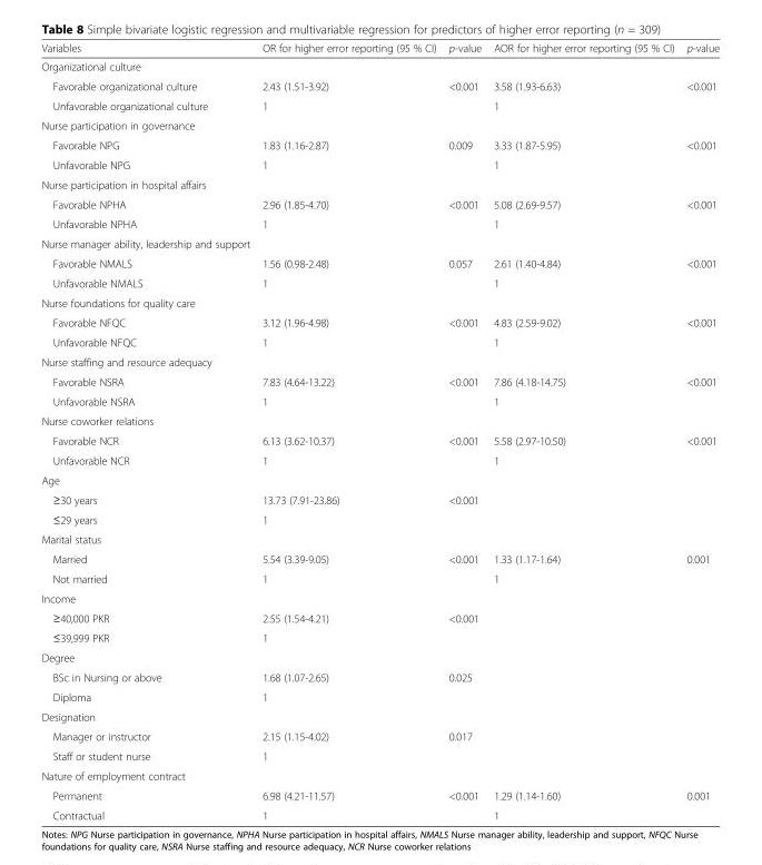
<table><thead><tr><td>Variables</td><td>OR for higher error reporting (95 % CI)</td><td>p-value</td><td>AOR for higher error reporting (95 % CI)</td><td>p-value</td></tr></thead><tbody><tr><td colspan="5">Organizational culture</td></tr><tr><td>Favorable organizational culture</td><td>2.43 (1.51-3.92)</td><td>&lt;0.001</td><td>3.58 (1.93-6.63)</td><td>&lt;0.001</td></tr><tr><td>Unfavorable organizational culture</td><td>1</td><td></td><td>1</td><td></td></tr><tr><td colspan="5">Nurse participation in governance</td></tr><tr><td>Favorable NPG</td><td>1.83 (1.16-2.87)</td><td>0.009</td><td>3.33 (1.87-5.95)</td><td>&lt;0.001</td></tr><tr><td>Unfavorable NPG</td><td>1</td><td></td><td>1</td><td></td></tr><tr><td colspan="5">Nurse participation in hospital affairs</td></tr><tr><td>Favorable NPHA</td><td>2.96 (1.85-4.70)</td><td>&lt;0.001</td><td>5.08 (2.69-9.57)</td><td>&lt;0.001</td></tr><tr><td>Unfavorable NPHA</td><td>1</td><td></td><td>1</td><td></td></tr><tr><td colspan="5">Nurse manager ability, leadership and support</td></tr><tr><td>Favorable NMALS</td><td>1.56 (0.98-2.48)</td><td>0.057</td><td>2.61 (1.40-4.84)</td><td>&lt;0.001</td></tr><tr><td>Unfavorable NMALS</td><td>1</td><td></td><td>1</td><td></td></tr><tr><td colspan="5">Nurse foundations for quality care</td></tr><tr><td>Favorable NFQC</td><td>3.12 (1.96-4.98)</td><td>&lt;0.001</td><td>4.83 (2.59-9.02)</td><td>&lt;0.001</td></tr><tr><td>Unfavorable NFQC</td><td>1</td><td></td><td>1</td><td></td></tr><tr><td colspan="5">Nurse staffing and resource adequacy</td></tr><tr><td>Favorable NSRA</td><td>7.83 (4.64-13.22)</td><td>&lt;0.001</td><td>7.86 (4.18-14.75)</td><td>&lt;0.001</td></tr><tr><td>Unfavorable NSRA</td><td>1</td><td></td><td>1</td><td></td></tr><tr><td colspan="5">Nurse coworker relations</td></tr><tr><td>Favorable NCR</td><td>6.13 (3.62-10.37)</td><td>&lt;0.001</td><td>5.58 (2.97-10.50)</td><td>&lt;0.001</td></tr><tr><td>Unfavorable NCR</td><td>1</td><td></td><td>1</td><td></td></tr><tr><td colspan="5">Age</td></tr><tr><td>≥30 years</td><td>13.73 (7.91-23.86)</td><td>&lt;0.001</td><td></td><td></td></tr><tr><td>≤29 years</td><td>1</td><td></td><td></td><td></td></tr><tr><td colspan="5">Marital status</td></tr><tr><td>Married</td><td>5.54 (3.39-9.05)</td><td>&lt;0.001</td><td>1.33 (1.17-1.64)</td><td>0.001</td></tr><tr><td>Not married</td><td>1</td><td></td><td>1</td><td></td></tr><tr><td colspan="5">Income</td></tr><tr><td>≥40,000 PKR</td><td>2.55 (1.54-4.21)</td><td>&lt;0.001</td><td></td><td></td></tr><tr><td>≤39,999 PKR</td><td>1</td><td></td><td></td><td></td></tr><tr><td colspan="5">Degree</td></tr><tr><td>BSc in Nursing or above</td><td>1.68 (1.07-2.65)</td><td>0.025</td><td></td><td></td></tr><tr><td>Diploma</td><td>1</td><td></td><td></td><td></td></tr><tr><td colspan="5">Designation</td></tr><tr><td>Manager or instructor</td><td>2.15 (1.15-4.02)</td><td>0.017</td><td></td><td></td></tr><tr><td>Staff or student nurse</td><td>1</td><td></td><td></td><td></td></tr><tr><td colspan="5">Nature of employment contract</td></tr><tr><td>Permanent</td><td>6.98 (4.21-11.57)</td><td>&lt;0.001</td><td>1.29 (1.14-1.60)</td><td>0.001</td></tr><tr><td>Contractual</td><td>1</td><td></td><td>1</td><td></td></tr></tbody></table>